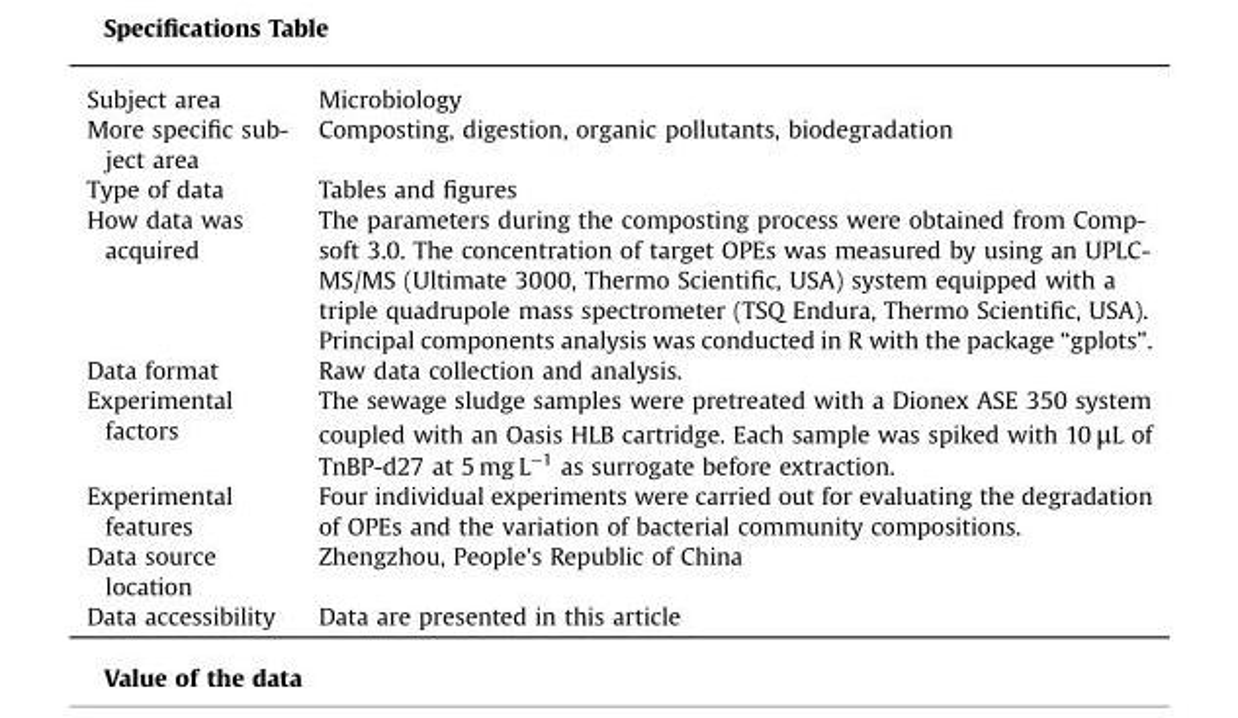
<table><tbody><tr><td>Subject area</td><td>Microbiology</td></tr><tr><td>More specific sub- ject area</td><td>Composting, digestion, organic pollutants, biodegradation</td></tr><tr><td>Type of data</td><td>Tables and figures</td></tr><tr><td>How data was acquired</td><td>The parameters during the composting process were obtained from Comp- soft 3.0. The concentration of target OPEs was measured by using an UPLC- MS/MS (Ultimate 3000, Thermo Scientific, USA) system equipped with a triple quadrupole mass spectrometer (TSQ Endura, Thermo Scientific, USA). Principal components analysis was conducted in R with the package “gplots”.</td></tr><tr><td>Data format</td><td>Raw data collection and analysis.</td></tr><tr><td>Experimental factors</td><td>The sewage sludge samples were pretreated with a Dionex ASE 350 system coupled with an Oasis HLB cartridge. Each sample was spiked with 10 μL of TnBP-d27 at 5 mg L<sup>−1</sup> as surrogate before extraction.</td></tr><tr><td>Experimental features</td><td>Four individual experiments were carried out for evaluating the degradation of OPEs and the variation of bacterial community compositions.</td></tr><tr><td>Data source location</td><td>Zhengzhou, People&#x27;s Republic of China</td></tr><tr><td>Data accessibility</td><td>Data are presented in this article</td></tr></tbody></table>